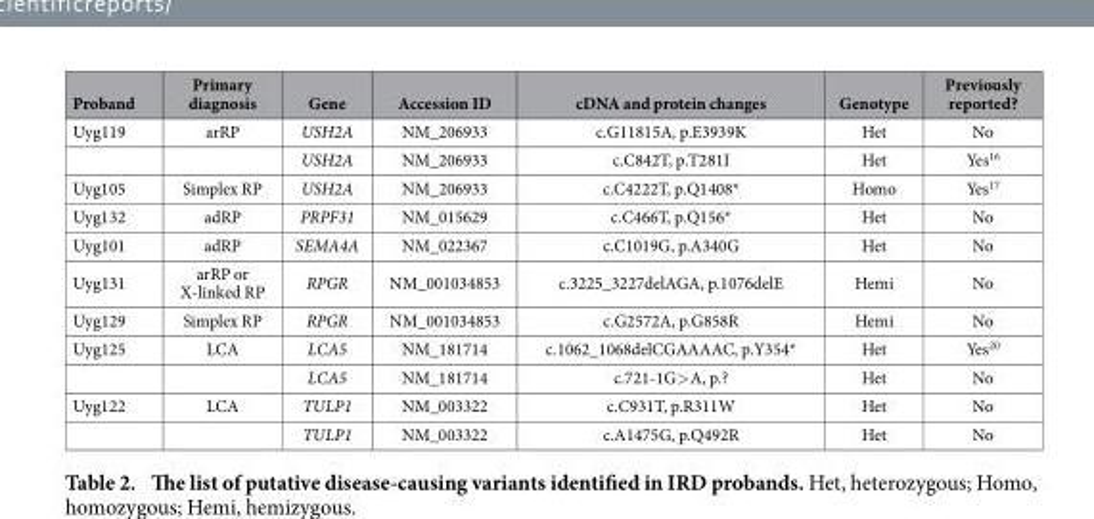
<table><thead><tr><td>Proband</td><td>Primary diagnosis</td><td>Gene</td><td>Accession ID</td><td>cDNA and protein changes</td><td>Genotype</td><td>Previously reported?</td></tr></thead><tbody><tr><td rowspan="2">Uyg119</td><td>arRP</td><td>USH2A</td><td>NM_206933</td><td>c.G11815A, p.E3939K</td><td>Het</td><td>No</td></tr><tr><td></td><td>USH2A</td><td>NM_206933</td><td>c.C842T, p.T281I</td><td>Het</td><td>Yes<sup>16</sup></td></tr><tr><td>Uyg105</td><td>Simplex RP</td><td>USH2A</td><td>NM_206933</td><td>c.C4222T, p.Q1408*</td><td>Homo</td><td>Yes<sup>17</sup></td></tr><tr><td>Uyg132</td><td>adRP</td><td>PRPF31</td><td>NM_015629</td><td>c.C466T, p.Q156*</td><td>Het</td><td>No</td></tr><tr><td>Uyg101</td><td>adRP</td><td>SEMA4A</td><td>NM_022367</td><td>c.C1019G, p.A340G</td><td>Het</td><td>No</td></tr><tr><td>Uyg131</td><td>arRP or X-linked RP</td><td>RPGR</td><td>NM_001034853</td><td>c.3225_3227delAGA, p.1076delE</td><td>Hemi</td><td>No</td></tr><tr><td>Uyg129</td><td>Simplex RP</td><td>RPGR</td><td>NM_001034853</td><td>c.G2572A, p.G858R</td><td>Hemi</td><td>No</td></tr><tr><td rowspan="2">Uyg125</td><td>LCA</td><td>LCA5</td><td>NM_181714</td><td>c.1062_1068delCGAAAAC, p.Y354*</td><td>Het</td><td>Yes<sup>20</sup></td></tr><tr><td></td><td>LCA5</td><td>NM_181714</td><td>c.721-1G&gt; A, p.?</td><td>Het</td><td>No</td></tr><tr><td rowspan="2">Uyg122</td><td>LCA</td><td>TULP1</td><td>NM_003322</td><td>c.C931T, p.R311W</td><td>Het</td><td>No</td></tr><tr><td></td><td>TULP1</td><td>NM_003322</td><td>c.A1475G, p.Q492R</td><td>Het</td><td>No</td></tr></tbody></table>